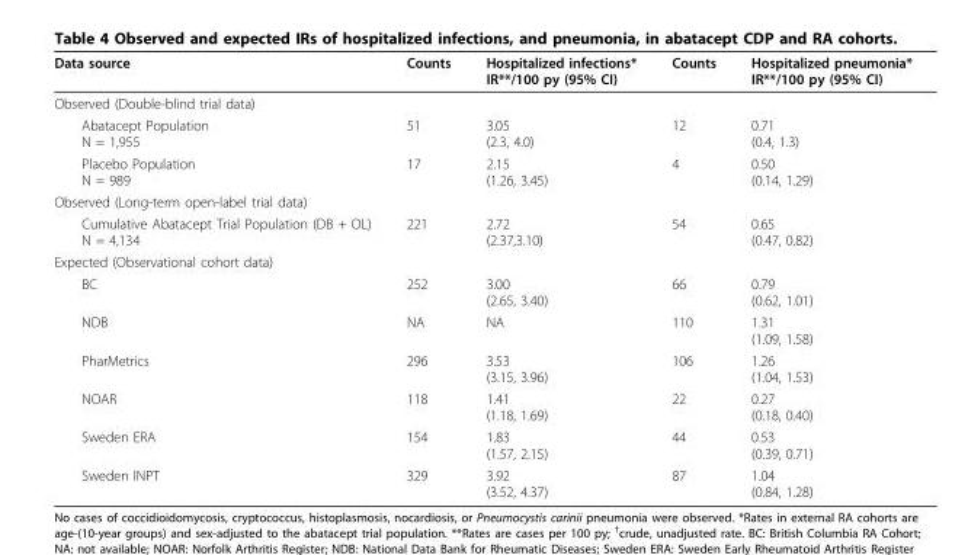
<table><thead><tr><td>Data source</td><td>Counts</td><td>Hospitalized infections* IR**/100 py (95% CI)</td><td>Counts</td><td>Hospitalized pneumonia* IR**/100 py (95% CI)</td></tr></thead><tbody><tr><td colspan="5">Observed (Double-blind trial data)</td></tr><tr><td>Abatacept Population N = 1,955</td><td>51</td><td>3.05 (2.3, 4.0)</td><td>12</td><td>0.71 (0.4, 1.3)</td></tr><tr><td>Placebo Population N = 989</td><td>17</td><td>2.15 (1.26, 3.45)</td><td>4</td><td>0.50 (0.14, 1.29)</td></tr><tr><td colspan="5">Observed (Long-term open-label trial data)</td></tr><tr><td>Cumulative Abatacept Trial Population (DB + OL) N = 4,134</td><td>221</td><td>2.72 (2.37,3.10)</td><td>54</td><td>0.65 (0.47, 0.82)</td></tr><tr><td colspan="5">Expected (Observational cohort data)</td></tr><tr><td>BC</td><td>252</td><td>3.00 (2.65, 3.40)</td><td>66</td><td>0.79 (0.62, 1.01)</td></tr><tr><td>NDB</td><td>NA</td><td>NA</td><td>110</td><td>1.31 (1.09, 1.58)</td></tr><tr><td>PharMetrics</td><td>296</td><td>3.53 (3.15, 3.96)</td><td>106</td><td>1.26 (1.04, 1.53)</td></tr><tr><td>NOAR</td><td>118</td><td>1.41 (1.18, 1.69)</td><td>22</td><td>0.27 (0.18, 0.40)</td></tr><tr><td>Sweden ERA</td><td>154</td><td>1.83 (1.57, 2.15)</td><td>44</td><td>0.53 (0.39, 0.71)</td></tr><tr><td>Sweden INPT</td><td>329</td><td>3.92 (3.52, 4.37)</td><td>87</td><td>1.04 (0.84, 1.28)</td></tr></tbody></table>